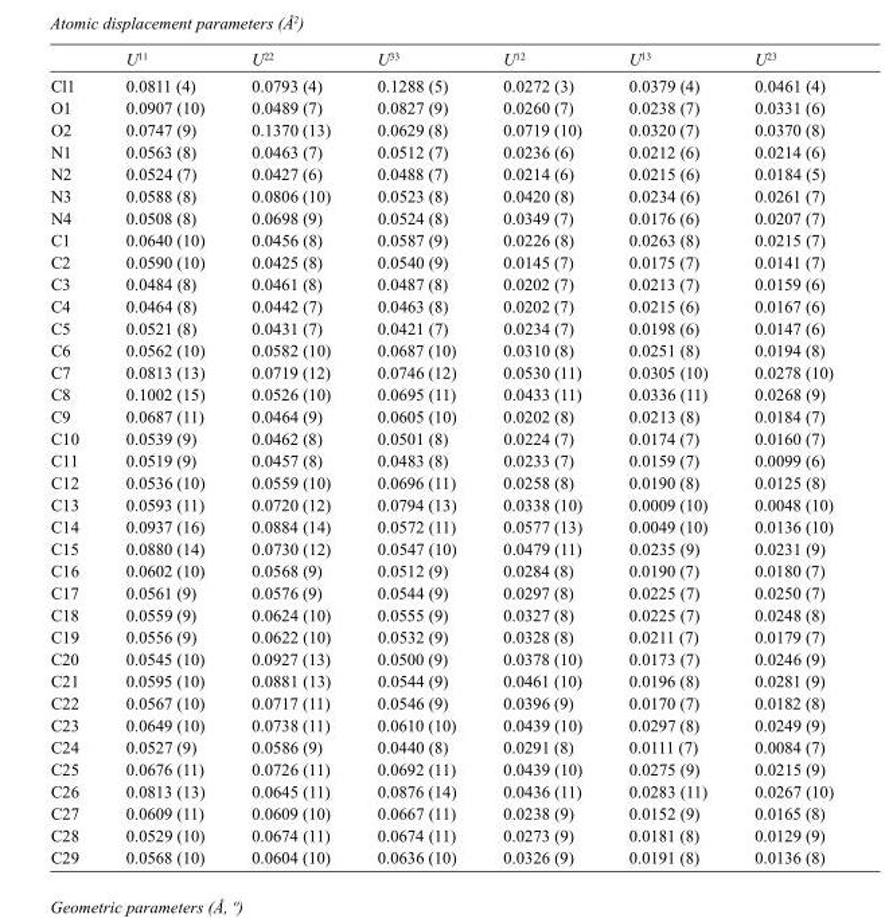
<table><thead><tr><td></td><td>U<sup>11</sup></td><td>U<sup>22</sup></td><td>U<sup>33</sup></td><td>U<sup>12</sup></td><td>U<sup>13</sup></td><td>U<sup>23</sup></td></tr></thead><tbody><tr><td>Cl1</td><td>0.0811 (4)</td><td>0.0793 (4)</td><td>0.1288 (5)</td><td>0.0272 (3)</td><td>0.0379 (4)</td><td>0.0461 (4)</td></tr><tr><td>O1</td><td>0.0907 (10)</td><td>0.0489 (7)</td><td>0.0827 (9)</td><td>0.0260 (7)</td><td>0.0238 (7)</td><td>0.0331 (6)</td></tr><tr><td>O2</td><td>0.0747 (9)</td><td>0.1370 (13)</td><td>0.0629 (8)</td><td>0.0719 (10)</td><td>0.0320 (7)</td><td>0.0370 (8)</td></tr><tr><td>N1</td><td>0.0563 (8)</td><td>0.0463 (7)</td><td>0.0512 (7)</td><td>0.0236 (6)</td><td>0.0212 (6)</td><td>0.0214 (6)</td></tr><tr><td>N2</td><td>0.0524 (7)</td><td>0.0427 (6)</td><td>0.0488 (7)</td><td>0.0214 (6)</td><td>0.0215 (6)</td><td>0.0184 (5)</td></tr><tr><td>N3</td><td>0.0588 (8)</td><td>0.0806 (10)</td><td>0.0523 (8)</td><td>0.0420 (8)</td><td>0.0234 (6)</td><td>0.0261 (7)</td></tr><tr><td>N4</td><td>0.0508 (8)</td><td>0.0698 (9)</td><td>0.0524 (8)</td><td>0.0349 (7)</td><td>0.0176 (6)</td><td>0.0207 (7)</td></tr><tr><td>C1</td><td>0.0640 (10)</td><td>0.0456 (8)</td><td>0.0587 (9)</td><td>0.0226 (8)</td><td>0.0263 (8)</td><td>0.0215 (7)</td></tr><tr><td>C2</td><td>0.0590 (10)</td><td>0.0425 (8)</td><td>0.0540 (9)</td><td>0.0145 (7)</td><td>0.0175 (7)</td><td>0.0141 (7)</td></tr><tr><td>C3</td><td>0.0484 (8)</td><td>0.0461 (8)</td><td>0.0487 (8)</td><td>0.0202 (7)</td><td>0.0213 (7)</td><td>0.0159 (6)</td></tr><tr><td>C4</td><td>0.0464 (8)</td><td>0.0442 (7)</td><td>0.0463 (8)</td><td>0.0202 (7)</td><td>0.0215 (6)</td><td>0.0167 (6)</td></tr><tr><td>C5</td><td>0.0521 (8)</td><td>0.0431 (7)</td><td>0.0421 (7)</td><td>0.0234 (7)</td><td>0.0198 (6)</td><td>0.0147 (6)</td></tr><tr><td>C6</td><td>0.0562 (10)</td><td>0.0582 (10)</td><td>0.0687 (10)</td><td>0.0310 (8)</td><td>0.0251 (8)</td><td>0.0194 (8)</td></tr><tr><td>C7</td><td>0.0813 (13)</td><td>0.0719 (12)</td><td>0.0746 (12)</td><td>0.0530 (11)</td><td>0.0305 (10)</td><td>0.0278 (10)</td></tr><tr><td>C8</td><td>0.1002 (15)</td><td>0.0526 (10)</td><td>0.0695 (11)</td><td>0.0433 (11)</td><td>0.0336 (11)</td><td>0.0268 (9)</td></tr><tr><td>C9</td><td>0.0687 (11)</td><td>0.0464 (9)</td><td>0.0605 (10)</td><td>0.0202 (8)</td><td>0.0213 (8)</td><td>0.0184 (7)</td></tr><tr><td>C10</td><td>0.0539 (9)</td><td>0.0462 (8)</td><td>0.0501 (8)</td><td>0.0224 (7)</td><td>0.0174 (7)</td><td>0.0160 (7)</td></tr><tr><td>C11</td><td>0.0519 (9)</td><td>0.0457 (8)</td><td>0.0483 (8)</td><td>0.0233 (7)</td><td>0.0159 (7)</td><td>0.0099 (6)</td></tr><tr><td>C12</td><td>0.0536 (10)</td><td>0.0559 (10)</td><td>0.0696 (11)</td><td>0.0258 (8)</td><td>0.0190 (8)</td><td>0.0125 (8)</td></tr><tr><td>C13</td><td>0.0593 (11)</td><td>0.0720 (12)</td><td>0.0794 (13)</td><td>0.0338 (10)</td><td>0.0009 (10)</td><td>0.0048 (10)</td></tr><tr><td>C14</td><td>0.0937 (16)</td><td>0.0884 (14)</td><td>0.0572 (11)</td><td>0.0577 (13)</td><td>0.0049 (10)</td><td>0.0136 (10)</td></tr><tr><td>C15</td><td>0.0880 (14)</td><td>0.0730 (12)</td><td>0.0547 (10)</td><td>0.0479 (11)</td><td>0.0235 (9)</td><td>0.0231 (9)</td></tr><tr><td>C16</td><td>0.0602 (10)</td><td>0.0568 (9)</td><td>0.0512 (9)</td><td>0.0284 (8)</td><td>0.0190 (7)</td><td>0.0180 (7)</td></tr><tr><td>C17</td><td>0.0561 (9)</td><td>0.0576 (9)</td><td>0.0544 (9)</td><td>0.0297 (8)</td><td>0.0225 (7)</td><td>0.0250 (7)</td></tr><tr><td>C18</td><td>0.0559 (9)</td><td>0.0624 (10)</td><td>0.0555 (9)</td><td>0.0327 (8)</td><td>0.0225 (7)</td><td>0.0248 (8)</td></tr><tr><td>C19</td><td>0.0556 (9)</td><td>0.0622 (10)</td><td>0.0532 (9)</td><td>0.0328 (8)</td><td>0.0211 (7)</td><td>0.0179 (7)</td></tr><tr><td>C20</td><td>0.0545 (10)</td><td>0.0927 (13)</td><td>0.0500 (9)</td><td>0.0378 (10)</td><td>0.0173 (7)</td><td>0.0246 (9)</td></tr><tr><td>C21</td><td>0.0595 (10)</td><td>0.0881 (13)</td><td>0.0544 (9)</td><td>0.0461 (10)</td><td>0.0196 (8)</td><td>0.0281 (9)</td></tr><tr><td>C22</td><td>0.0567 (10)</td><td>0.0717 (11)</td><td>0.0546 (9)</td><td>0.0396 (9)</td><td>0.0170 (7)</td><td>0.0182 (8)</td></tr><tr><td>C23</td><td>0.0649 (10)</td><td>0.0738 (11)</td><td>0.0610 (10)</td><td>0.0439 (10)</td><td>0.0297 (8)</td><td>0.0249 (9)</td></tr><tr><td>C24</td><td>0.0527 (9)</td><td>0.0586 (9)</td><td>0.0440 (8)</td><td>0.0291 (8)</td><td>0.0111 (7)</td><td>0.0084 (7)</td></tr><tr><td>C25</td><td>0.0676 (11)</td><td>0.0726 (11)</td><td>0.0692 (11)</td><td>0.0439 (10)</td><td>0.0275 (9)</td><td>0.0215 (9)</td></tr><tr><td>C26</td><td>0.0813 (13)</td><td>0.0645 (11)</td><td>0.0876 (14)</td><td>0.0436 (11)</td><td>0.0283 (11)</td><td>0.0267 (10)</td></tr><tr><td>C27</td><td>0.0609 (11)</td><td>0.0609 (10)</td><td>0.0667 (11)</td><td>0.0238 (9)</td><td>0.0152 (9)</td><td>0.0165 (8)</td></tr><tr><td>C28</td><td>0.0529 (10)</td><td>0.0674 (11)</td><td>0.0674 (11)</td><td>0.0273 (9)</td><td>0.0181 (8)</td><td>0.0129 (9)</td></tr><tr><td>C29</td><td>0.0568 (10)</td><td>0.0604 (10)</td><td>0.0636 (10)</td><td>0.0326 (9)</td><td>0.0191 (8)</td><td>0.0136 (8)</td></tr></tbody></table>